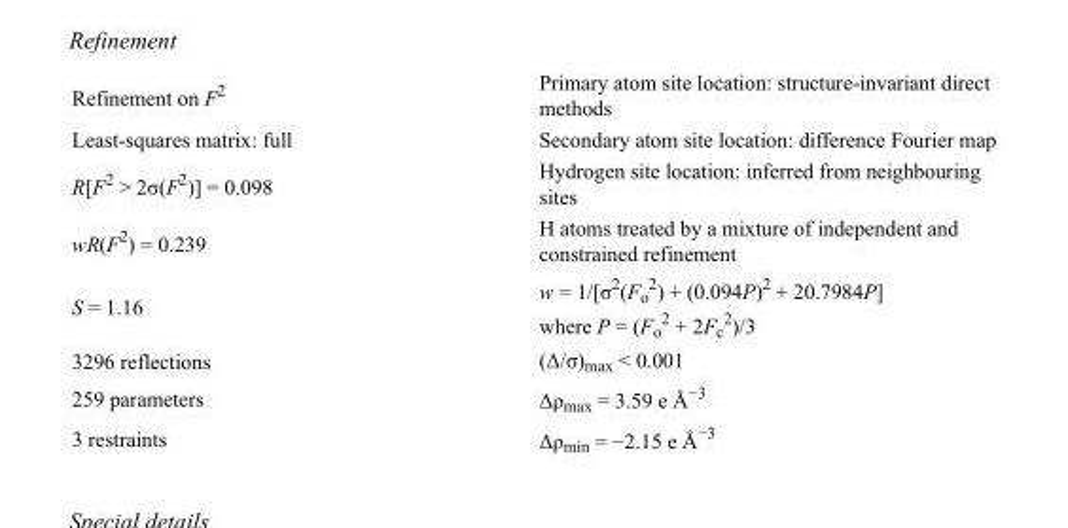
<table><tbody><tr><td>Refinement on F<sup>2</sup></td><td>Primary atom site location: structure-invariant direct methods</td></tr><tr><td>Least-squares matrix: full</td><td>Secondary atom site location: difference Fourier map</td></tr><tr><td>R[F<sup>2</sup> &gt; 2σ(F<sup>2</sup>)] = 0.098</td><td>Hydrogen site location: inferred from neighbouring sites</td></tr><tr><td>wR(F<sup>2</sup>) = 0.239</td><td>H atoms treated by a mixture of independent and constrained refinement</td></tr><tr><td>S = 1.16</td><td>w = 1/[σ<sup>2</sup>(F<sub>o</sub> <sup>2</sup>) + (0.094P)<sup>2</sup> + 20.7984P] where P = (F<sub>o</sub> <sup>2</sup> + 2F<sub>c</sub> <sup>2</sup>)/3</td></tr><tr><td>3296 reflections</td><td>(Δ/σ)<sub>max</sub> &lt; 0.001</td></tr><tr><td>259 parameters</td><td>Δρ<sub>max</sub> = 3.59 e Å<sup>−3</sup></td></tr><tr><td>3 restraints</td><td>Δρ<sub>min</sub> = −2.15 e Å<sup>−3</sup></td></tr></tbody></table>